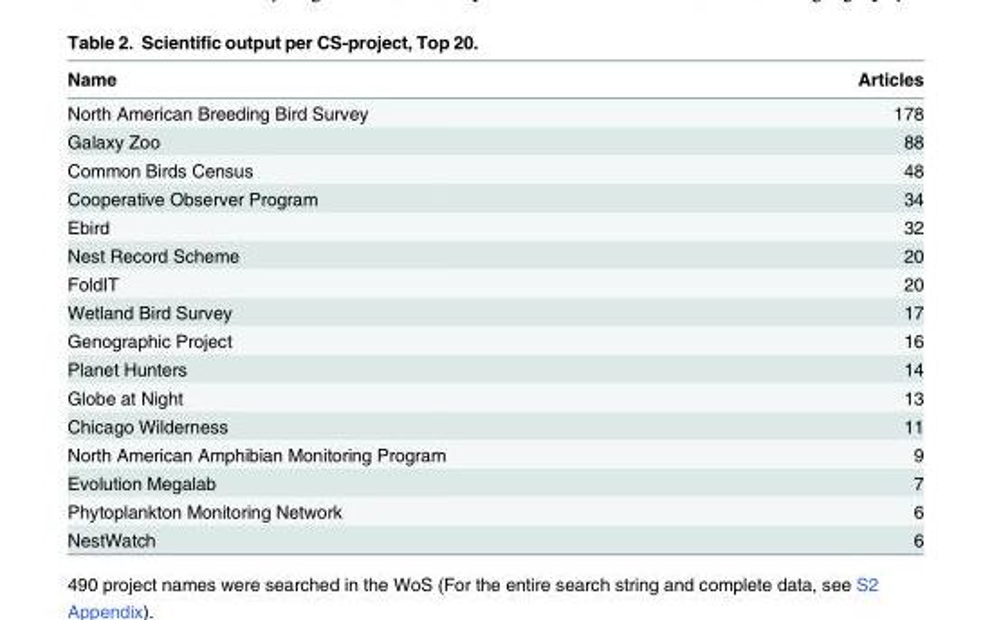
<table><thead><tr><td>Name</td><td>Articles</td></tr></thead><tbody><tr><td>North American Breeding Bird Survey</td><td>178</td></tr><tr><td>Galaxy Zoo</td><td>88</td></tr><tr><td>Common Birds Census</td><td>48</td></tr><tr><td>Cooperative Observer Program</td><td>34</td></tr><tr><td>Ebird</td><td>32</td></tr><tr><td>Nest Record Scheme</td><td>20</td></tr><tr><td>FoldIT</td><td>20</td></tr><tr><td>Wetland Bird Survey</td><td>17</td></tr><tr><td>Genographic Project</td><td>16</td></tr><tr><td>Planet Hunters</td><td>14</td></tr><tr><td>Globe at Night</td><td>13</td></tr><tr><td>Chicago Wilderness</td><td>11</td></tr><tr><td>North American Amphibian Monitoring Program</td><td>9</td></tr><tr><td>Evolution Megalab</td><td>7</td></tr><tr><td>Phytoplankton Monitoring Network</td><td>6</td></tr><tr><td>NestWatch</td><td>6</td></tr></tbody></table>